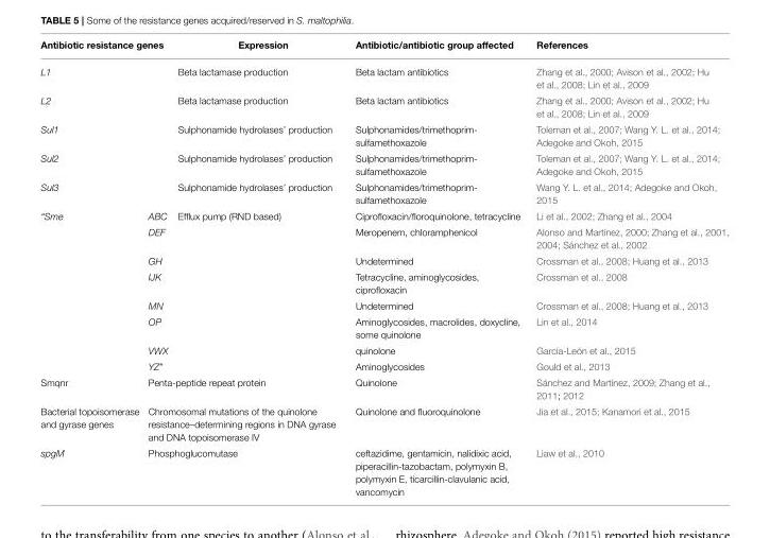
<table><thead><tr><td colspan="2">Antibiotic resistance genes</td><td rowspan="2">Expression Beta lactamase production</td><td rowspan="2">Antibiotic/antibiotic group affected Beta lactam antibiotics</td><td rowspan="2">References Zhang et al., 2000; Avison et al., 2002; Hu et al., 2008; Lin et al., 2009</td></tr><tr><td>L1</td><td></td></tr></thead><tbody><tr><td>L2</td><td></td><td>Beta lactamase production</td><td>Beta lactam antibiotics</td><td>Zhang et al., 2000; Avison et al., 2002; Hu et al., 2008; Lin et al., 2009</td></tr><tr><td>Sul1</td><td></td><td>Sulphonamide hydrolases’ production</td><td>Sulphonamides/trimethoprim- sulfamethoxazole</td><td>Toleman et al., 2007; Wang Y. L. et al., 2014; Adegoke and Okoh, 2015</td></tr><tr><td>Sul2</td><td></td><td>Sulphonamide hydrolases’ production</td><td>Sulphonamides/trimethoprim- sulfamethoxazole</td><td>Toleman et al., 2007; Wang Y. L. et al., 2014; Adegoke and Okoh, 2015</td></tr><tr><td>Sul3</td><td></td><td>Sulphonamide hydrolases’ production</td><td>Sulphonamides/trimethoprim- sulfamethoxazole</td><td>Wang Y. L. et al., 2014; Adegoke and Okoh, 2015</td></tr><tr><td rowspan="8">“Sme</td><td>ABC</td><td>Efflux pump (RND based)</td><td>Ciprofloxacin/floroquinolone, tetracycline</td><td>Li et al., 2002; Zhang et al., 2004</td></tr><tr><td>DEF</td><td></td><td>Meropenem, chloramphenicol</td><td>Alonso and Martínez, 2000; Zhang et al., 2001, 2004; Sánchez et al., 2002</td></tr><tr><td>GH</td><td></td><td>Undetermined</td><td>Crossman et al., 2008; Huang et al., 2013</td></tr><tr><td>IJK</td><td></td><td>Tetracycline, aminoglycosides, ciprofloxacin</td><td>Crossman et al., 2008</td></tr><tr><td>MN</td><td></td><td>Undetermined</td><td>Crossman et al., 2008; Huang et al., 2013</td></tr><tr><td>OP</td><td></td><td>Aminoglycosides, macrolides, doxycline, some quinolone</td><td>Lin et al., 2014</td></tr><tr><td>VWX</td><td></td><td>quinolone</td><td>García-León et al., 2015</td></tr><tr><td>YZ”</td><td></td><td>Aminoglycosides</td><td>Gould et al., 2013</td></tr><tr><td>Smqnr</td><td colspan="2">Penta-peptide repeat protein</td><td>Quinolone</td><td>Sánchez and Martínez, 2009; Zhang et al., 2011; 2012</td></tr><tr><td>Bacterial topoisomerase and gyrase genes</td><td colspan="2">Chromosomal mutations of the quinolone resistance–determining regions in DNA gyrase and DNA topoisomerase IV</td><td>Quinolone and fluoroquinolone</td><td>Jia et al., 2015; Kanamori et al., 2015</td></tr><tr><td>spgM</td><td colspan="2">Phosphoglucomutase</td><td>ceftazidime, gentamicin, nalidixic acid, piperacillin-tazobactam, polymyxin B, polymyxin E, ticarcillin-clavulanic acid, vancomycin</td><td>Liaw et al., 2010</td></tr></tbody></table>